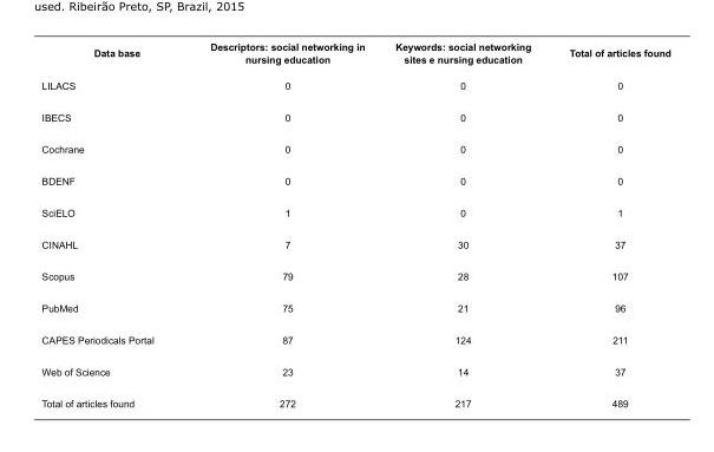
<table><tbody><tr><td>Data base</td><td>Descriptors: social networking in nursing education</td><td>Keywords: social networking sites e nursing education</td><td>Total of articles found</td></tr><tr><td>LILACS</td><td>0</td><td>0</td><td>0</td></tr><tr><td>IBECS</td><td>0</td><td>0</td><td>0</td></tr><tr><td>Cochrane</td><td>0</td><td>0</td><td>0</td></tr><tr><td>BDENF</td><td>0</td><td>0</td><td>0</td></tr><tr><td>SciELO</td><td>1</td><td>0</td><td>1</td></tr><tr><td>CINAHL</td><td>7</td><td>30</td><td>37</td></tr><tr><td>Scopus</td><td>79</td><td>28</td><td>107</td></tr><tr><td>PubMed</td><td>75</td><td>21</td><td>96</td></tr><tr><td>CAPES Periodicals Portal</td><td>87</td><td>124</td><td>211</td></tr><tr><td>Web of Science</td><td>23</td><td>14</td><td>37</td></tr><tr><td>Total of articles found</td><td>272</td><td>217</td><td>489</td></tr></tbody></table>